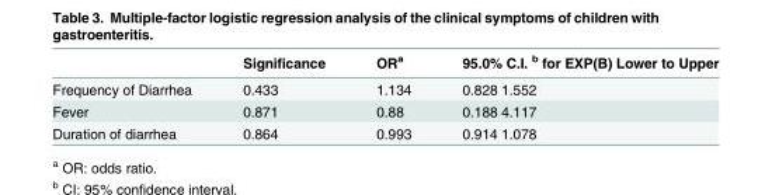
<table><thead><tr><td></td><td>Significance</td><td>OR<sup>a</sup></td><td>95.0% C.I. <sup>b</sup> for EXP(B) Lower to Upper</td></tr></thead><tbody><tr><td>Frequency of Diarrhea</td><td>0.433</td><td>1.134</td><td>0.828 1.552</td></tr><tr><td>Fever</td><td>0.871</td><td>0.88</td><td>0.188 4.117</td></tr><tr><td>Duration of diarrhea</td><td>0.864</td><td>0.993</td><td>0.914 1.078</td></tr></tbody></table>